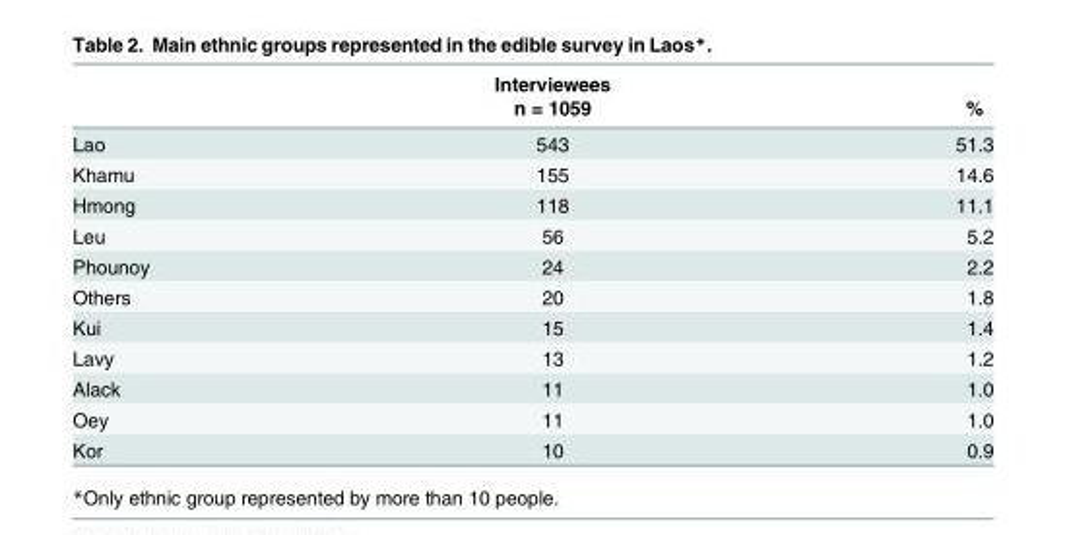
<table><thead><tr><td rowspan="2"></td><td rowspan="2">Interviewees n = 1059</td><td rowspan="2">%</td></tr><tr></tr></thead><tbody><tr><td>Lao</td><td>543</td><td>51.3</td></tr><tr><td>Khamu</td><td>155</td><td>14.6</td></tr><tr><td>Hmong</td><td>118</td><td>11.1</td></tr><tr><td>Leu</td><td>56</td><td>5.2</td></tr><tr><td>Phounoy</td><td>24</td><td>2.2</td></tr><tr><td>Others</td><td>20</td><td>1.8</td></tr><tr><td>Kui</td><td>15</td><td>1.4</td></tr><tr><td>Lavy</td><td>13</td><td>1.2</td></tr><tr><td>Alack</td><td>11</td><td>1.0</td></tr><tr><td>Oey</td><td>11</td><td>1.0</td></tr><tr><td>Kor</td><td>10</td><td>0.9</td></tr></tbody></table>